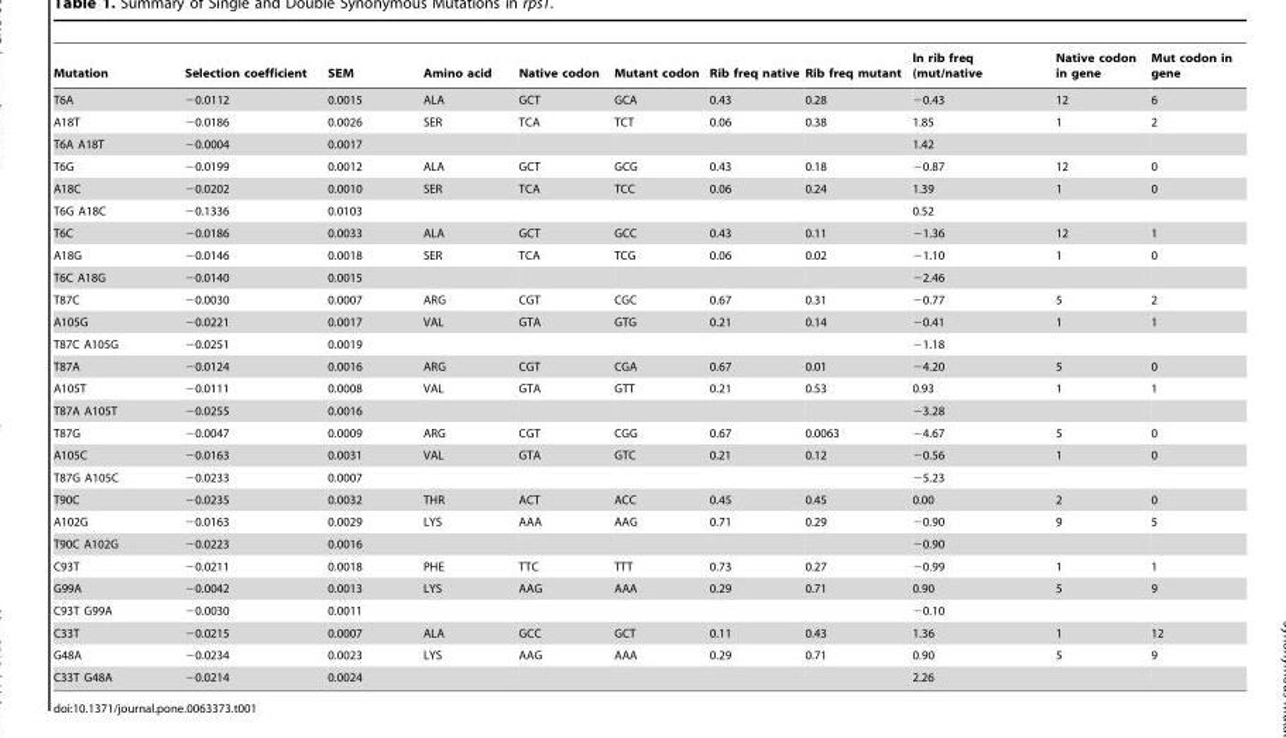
<table><thead><tr><td>Mutation</td><td>Selection coefficient</td><td>SEM</td><td>Amino acid</td><td>Native codon</td><td>Mutant codon</td><td>Rib freq native</td><td>Rib freq mutant</td><td>ln rib freq (mut/native</td><td>Native codon in gene</td><td>Mut codon in gene</td></tr></thead><tbody><tr><td>T6A</td><td>−0.0112</td><td>0.0015</td><td>ALA</td><td>GCT</td><td>GCA</td><td>0.43</td><td>0.28</td><td>−0.43</td><td>12</td><td>6</td></tr><tr><td>A18T</td><td>−0.0186</td><td>0.0026</td><td>SER</td><td>TCA</td><td>TCT</td><td>0.06</td><td>0.38</td><td>1.85</td><td>1</td><td>2</td></tr><tr><td>T6A A18T</td><td>−0.0004</td><td>0.0017</td><td></td><td></td><td></td><td></td><td></td><td>1.42</td><td></td><td></td></tr><tr><td>T6G</td><td>−0.0199</td><td>0.0012</td><td>ALA</td><td>GCT</td><td>GCG</td><td>0.43</td><td>0.18</td><td>−0.87</td><td>12</td><td>0</td></tr><tr><td>A18C</td><td>−0.0202</td><td>0.0010</td><td>SER</td><td>TCA</td><td>TCC</td><td>0.06</td><td>0.24</td><td>1.39</td><td>1</td><td>0</td></tr><tr><td>T6G A18C</td><td>−0.1336</td><td>0.0103</td><td></td><td></td><td></td><td></td><td></td><td>0.52</td><td></td><td></td></tr><tr><td>T6C</td><td>−0.0186</td><td>0.0033</td><td>ALA</td><td>GCT</td><td>GCC</td><td>0.43</td><td>0.11</td><td>−1.36</td><td>12</td><td>1</td></tr><tr><td>A18G</td><td>−0.0146</td><td>0.0018</td><td>SER</td><td>TCA</td><td>TCG</td><td>0.06</td><td>0.02</td><td>−1.10</td><td>1</td><td>0</td></tr><tr><td>T6C A18G</td><td>−0.0140</td><td>0.0015</td><td></td><td></td><td></td><td></td><td></td><td>−2.46</td><td></td><td></td></tr><tr><td>T87C</td><td>−0.0030</td><td>0.0007</td><td>ARG</td><td>CGT</td><td>CGC</td><td>0.67</td><td>0.31</td><td>−0.77</td><td>5</td><td>2</td></tr><tr><td>A105G</td><td>−0.0221</td><td>0.0017</td><td>VAL</td><td>GTA</td><td>GTG</td><td>0.21</td><td>0.14</td><td>−0.41</td><td>1</td><td>1</td></tr><tr><td>T87C A105G</td><td>−0.0251</td><td>0.0019</td><td></td><td></td><td></td><td></td><td></td><td>−1.18</td><td></td><td></td></tr><tr><td>T87A</td><td>−0.0124</td><td>0.0016</td><td>ARG</td><td>CGT</td><td>CGA</td><td>0.67</td><td>0.01</td><td>−4.20</td><td>5</td><td>0</td></tr><tr><td>A105T</td><td>−0.0111</td><td>0.0008</td><td>VAL</td><td>GTA</td><td>GTT</td><td>0.21</td><td>0.53</td><td>0.93</td><td>1</td><td>1</td></tr><tr><td>T87A A105T</td><td>−0.0255</td><td>0.0016</td><td></td><td></td><td></td><td></td><td></td><td>−3.28</td><td></td><td></td></tr><tr><td>T87G</td><td>−0.0047</td><td>0.0009</td><td>ARG</td><td>CGT</td><td>CGG</td><td>0.67</td><td>0.0063</td><td>−4.67</td><td>5</td><td>0</td></tr><tr><td>A105C</td><td>−0.0163</td><td>0.0031</td><td>VAL</td><td>GTA</td><td>GTC</td><td>0.21</td><td>0.12</td><td>−0.56</td><td>1</td><td>0</td></tr><tr><td>T87G A105C</td><td>−0.0233</td><td>0.0007</td><td></td><td></td><td></td><td></td><td></td><td>−5.23</td><td></td><td></td></tr><tr><td>T90C</td><td>−0.0235</td><td>0.0032</td><td>THR</td><td>ACT</td><td>ACC</td><td>0.45</td><td>0.45</td><td>0.00</td><td>2</td><td>0</td></tr><tr><td>A102G</td><td>−0.0163</td><td>0.0029</td><td>LYS</td><td>AAA</td><td>AAG</td><td>0.71</td><td>0.29</td><td>−0.90</td><td>9</td><td>5</td></tr><tr><td>T90C A102G</td><td>−0.0223</td><td>0.0016</td><td></td><td></td><td></td><td></td><td></td><td>−0.90</td><td></td><td></td></tr><tr><td>C93T</td><td>−0.0211</td><td>0.0018</td><td>PHE</td><td>TTC</td><td>TTT</td><td>0.73</td><td>0.27</td><td>−0.99</td><td>1</td><td>1</td></tr><tr><td>G99A</td><td>−0.0042</td><td>0.0013</td><td>LYS</td><td>AAG</td><td>AAA</td><td>0.29</td><td>0.71</td><td>0.90</td><td>5</td><td>9</td></tr><tr><td>C93T G99A</td><td>−0.0030</td><td>0.0011</td><td></td><td></td><td></td><td></td><td></td><td>−0.10</td><td></td><td></td></tr><tr><td>C33T</td><td>−0.0215</td><td>0.0007</td><td>ALA</td><td>GCC</td><td>GCT</td><td>0.11</td><td>0.43</td><td>1.36</td><td>1</td><td>12</td></tr><tr><td>G48A</td><td>−0.0234</td><td>0.0023</td><td>LYS</td><td>AAG</td><td>AAA</td><td>0.29</td><td>0.71</td><td>0.90</td><td>5</td><td>9</td></tr><tr><td>C33T G48A</td><td>−0.0214</td><td>0.0024</td><td></td><td></td><td></td><td></td><td></td><td>2.26</td><td></td><td></td></tr></tbody></table>